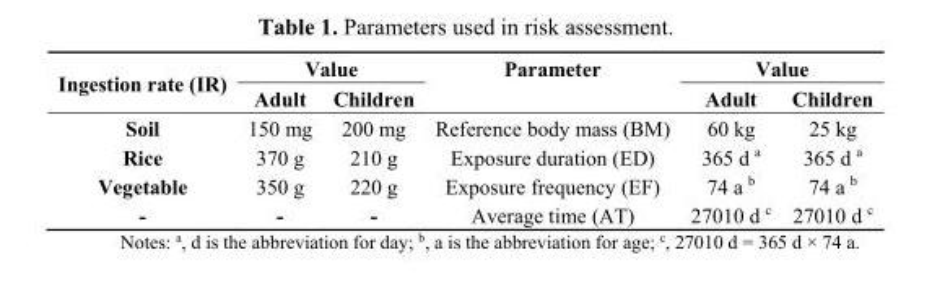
<table><thead><tr><td rowspan="2">Ingestion rate (IR)</td><td colspan="2">Value</td><td rowspan="2">Parameter</td><td colspan="2">Value</td></tr><tr><td>Adult</td><td>Children</td><td>Adult</td><td>Children</td></tr></thead><tbody><tr><td>Soil</td><td>150 mg</td><td>200 mg</td><td>Reference body mass (BM)</td><td>60 kg</td><td>25 kg</td></tr><tr><td>Rice</td><td>370 g</td><td>210 g</td><td>Exposure duration (ED)</td><td>365 d <sup>a</sup></td><td>365 d <sup>a</sup></td></tr><tr><td>Vegetable</td><td>350 g</td><td>220 g</td><td>Exposure frequency (EF)</td><td>74 a <sup>b</sup></td><td>74 a <sup>b</sup></td></tr><tr><td>-</td><td>-</td><td>-</td><td>Average time (AT)</td><td>27010 d <sup>c</sup></td><td>27010 d <sup>c</sup></td></tr></tbody></table>